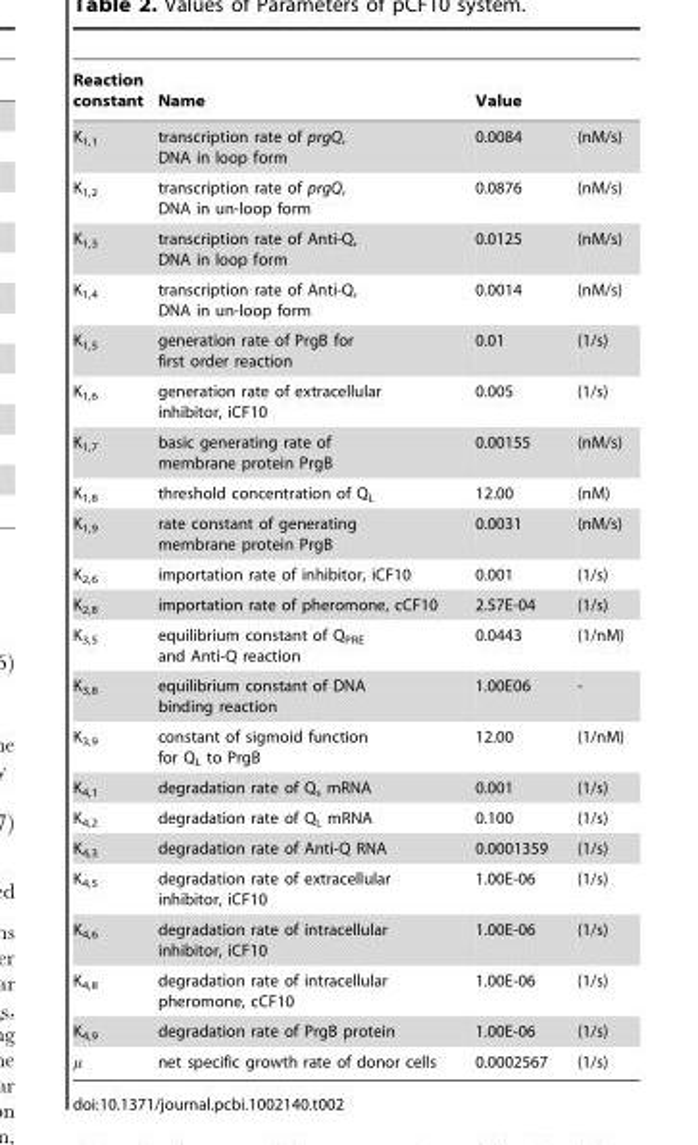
<table><thead><tr><td rowspan="2">Reaction constant K<sub>1,1</sub></td><td rowspan="2">Name transcription rate of prgQ, DNA in loop form</td><td colspan="2">Value</td></tr><tr><td>0.0084</td><td>(nM/s)</td></tr></thead><tbody><tr><td>K<sub>1,2</sub></td><td>transcription rate of prgQ, DNA in un-loop form</td><td>0.0876</td><td>(nM/s)</td></tr><tr><td>K<sub>1,3</sub></td><td>transcription rate of Anti-Q, DNA in loop form</td><td>0.0125</td><td>(nM/s)</td></tr><tr><td>K<sub>1,4</sub></td><td>transcription rate of Anti-Q, DNA in un-loop form</td><td>0.0014</td><td>(nM/s)</td></tr><tr><td>K<sub>1,5</sub></td><td>generation rate of PrgB for first order reaction</td><td>0.01</td><td>(1/s)</td></tr><tr><td>K<sub>1,6</sub></td><td>generation rate of extracellular inhibitor, iCF10</td><td>0.005</td><td>(1/s)</td></tr><tr><td>K<sub>1,7</sub></td><td>basic generating rate of membrane protein PrgB</td><td>0.00155</td><td>(nM/s)</td></tr><tr><td>K<sub>1,8</sub></td><td>threshold concentration of Q<sub>L</sub></td><td>12.00</td><td>(nM)</td></tr><tr><td>K<sub>1,9</sub></td><td>rate constant of generating membrane protein PrgB</td><td>0.0031</td><td>(nM/s)</td></tr><tr><td>K<sub>2,6</sub></td><td>importation rate of inhibitor, iCF10</td><td>0.001</td><td>(1/s)</td></tr><tr><td>K<sub>2,8</sub></td><td>importation rate of pheromone, cCF10</td><td>2.57E-04</td><td>(1/s)</td></tr><tr><td>K<sub>3,5</sub></td><td>equilibrium constant of Q<sub>PRE</sub> and Anti-Q reaction</td><td>0.0443</td><td>(1/nM)</td></tr><tr><td>K<sub>3,8</sub></td><td>equilibrium constant of DNA binding reaction</td><td>1.00E06</td><td>-</td></tr><tr><td>K<sub>3,9</sub></td><td>constant of sigmoid function for Q<sub>L</sub> to PrgB</td><td>12.00</td><td>(1/nM)</td></tr><tr><td>K<sub>4,1</sub></td><td>degradation rate of Q<sub>s</sub> mRNA</td><td>0.001</td><td>(1/s)</td></tr><tr><td>K<sub>4,2</sub></td><td>degradation rate of Q<sub>L</sub> mRNA</td><td>0.100</td><td>(1/s)</td></tr><tr><td>K<sub>4,3</sub></td><td>degradation rate of Anti-Q RNA</td><td>0.0001359</td><td>(1/s)</td></tr><tr><td>K<sub>4,5</sub></td><td>degradation rate of extracellular inhibitor, iCF10</td><td>1.00E-06</td><td>(1/s)</td></tr><tr><td>K<sub>4,6</sub></td><td>degradation rate of intracellular inhibitor, iCF10</td><td>1.00E-06</td><td>(1/s)</td></tr><tr><td>K<sub>4,8</sub></td><td>degradation rate of intracellular pheromone, cCF10</td><td>1.00E-06</td><td>(1/s)</td></tr><tr><td rowspan="2">K4,9 m</td><td>degradation rate of PrgB protein</td><td>1.00E-06</td><td>(1/s)</td></tr><tr><td>net specific growth rate of donor cells</td><td>0.0002567</td><td>(1/s)</td></tr></tbody></table>